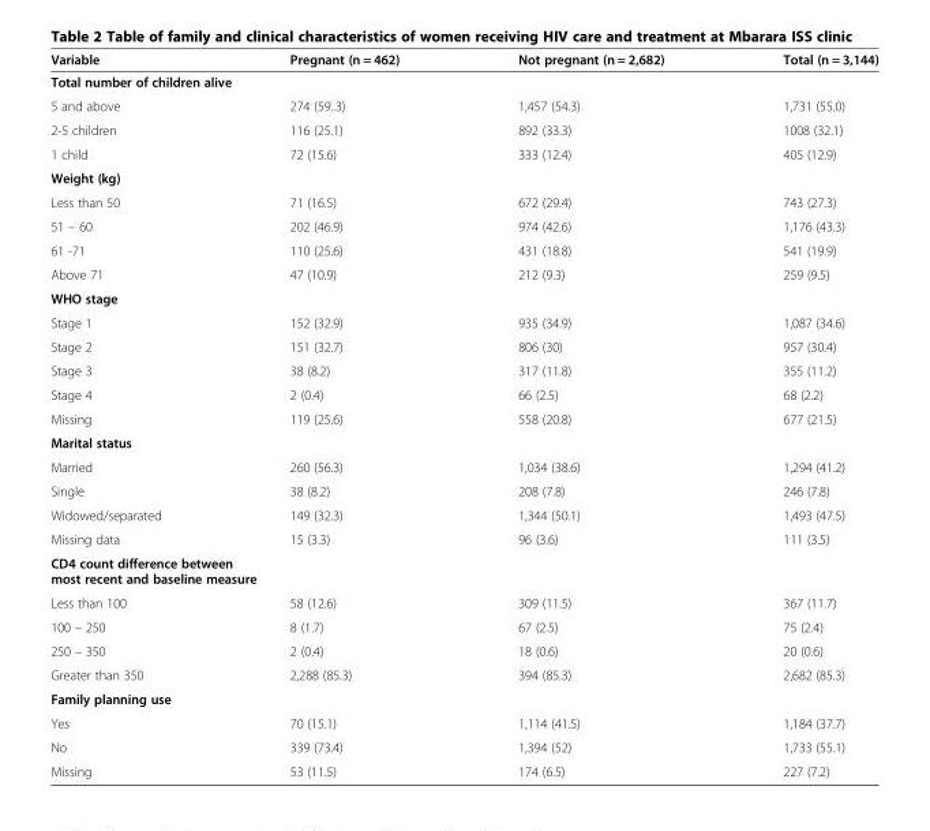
<table><thead><tr><td>Variable</td><td>Pregnant (n = 462)</td><td>Not pregnant (n = 2,682)</td><td>Total (n = 3,144)</td></tr></thead><tbody><tr><td colspan="4">Total number of children alive</td></tr><tr><td>5 and above</td><td>274 (59..3)</td><td>1,457 (54.3)</td><td>1,731 (55.0)</td></tr><tr><td>2-5 children</td><td>116 (25.1)</td><td>892 (33.3)</td><td>1008 (32.1)</td></tr><tr><td>1 child</td><td>72 (15.6)</td><td>333 (12.4)</td><td>405 (12.9)</td></tr><tr><td colspan="4">Weight (kg)</td></tr><tr><td>Less than 50</td><td>71 (16.5)</td><td>672 (29.4)</td><td>743 (27.3)</td></tr><tr><td>51 – 60</td><td>202 (46.9)</td><td>974 (42.6)</td><td>1,176 (43.3)</td></tr><tr><td>61 -71</td><td>110 (25.6)</td><td>431 (18.8)</td><td>541 (19.9)</td></tr><tr><td>Above 71</td><td>47 (10.9)</td><td>212 (9.3)</td><td>259 (9.5)</td></tr><tr><td colspan="4">WHO stage</td></tr><tr><td>Stage 1</td><td>152 (32.9)</td><td>935 (34.9)</td><td>1,087 (34.6)</td></tr><tr><td>Stage 2</td><td>151 (32.7)</td><td>806 (30)</td><td>957 (30.4)</td></tr><tr><td>Stage 3</td><td>38 (8.2)</td><td>317 (11.8)</td><td>355 (11.2)</td></tr><tr><td>Stage 4</td><td>2 (0.4)</td><td>66 (2.5)</td><td>68 (2.2)</td></tr><tr><td>Missing</td><td>119 (25.6)</td><td>558 (20.8)</td><td>677 (21.5)</td></tr><tr><td colspan="4">Marital status</td></tr><tr><td>Married</td><td>260 (56.3)</td><td>1,034 (38.6)</td><td>1,294 (41.2)</td></tr><tr><td>Single</td><td>38 (8.2)</td><td>208 (7.8)</td><td>246 (7.8)</td></tr><tr><td>Widowed/separated</td><td>149 (32.3)</td><td>1,344 (50.1)</td><td>1,493 (47.5)</td></tr><tr><td>Missing data</td><td>15 (3.3)</td><td>96 (3.6)</td><td>111 (3.5)</td></tr><tr><td colspan="4">CD4 count difference between most recent and baseline measure</td></tr><tr><td>Less than 100</td><td>58 (12.6)</td><td>309 (11.5)</td><td>367 (11.7)</td></tr><tr><td>100 – 250</td><td>8 (1.7)</td><td>67 (2.5)</td><td>75 (2.4)</td></tr><tr><td>250 – 350</td><td>2 (0.4)</td><td>18 (0.6)</td><td>20 (0.6)</td></tr><tr><td>Greater than 350</td><td>2,288 (85.3)</td><td>394 (85.3)</td><td>2,682 (85.3)</td></tr><tr><td colspan="4">Family planning use</td></tr><tr><td>Yes</td><td>70 (15.1)</td><td>1,114 (41.5)</td><td>1,184 (37.7)</td></tr><tr><td>No</td><td>339 (73.4)</td><td>1,394 (52)</td><td>1,733 (55.1)</td></tr><tr><td>Missing</td><td>53 (11.5)</td><td>174 (6.5)</td><td>227 (7.2)</td></tr></tbody></table>